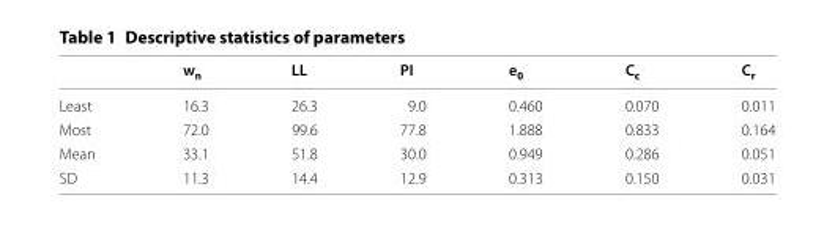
<table><thead><tr><td></td><td>w<sub>n</sub></td><td>LL</td><td>PI</td><td>e<sub>0</sub></td><td>C<sub>c</sub></td><td>C<sub>r</sub></td></tr></thead><tbody><tr><td>Least</td><td>16.3</td><td>26.3</td><td>9.0</td><td>0.460</td><td>0.070</td><td>0.011</td></tr><tr><td>Most</td><td>72.0</td><td>99.6</td><td>77.8</td><td>1.888</td><td>0.833</td><td>0.164</td></tr><tr><td>Mean</td><td>33.1</td><td>51.8</td><td>30.0</td><td>0.949</td><td>0.286</td><td>0.051</td></tr><tr><td>SD</td><td>11.3</td><td>14.4</td><td>12.9</td><td>0.313</td><td>0.150</td><td>0.031</td></tr></tbody></table>